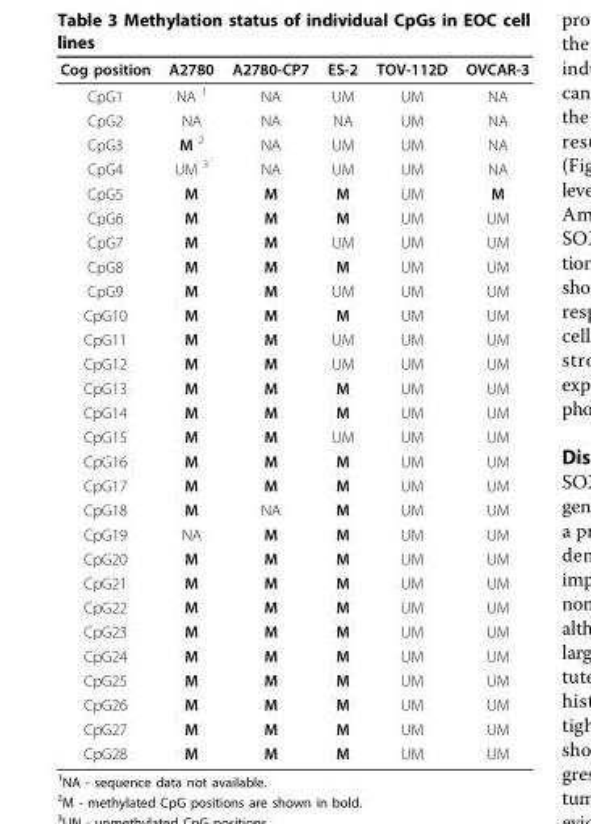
<table><thead><tr><td>Cog position</td><td>A2780</td><td>A2780-CP7</td><td>ES-2</td><td>TOV-112D</td><td>OVCAR-3</td></tr></thead><tbody><tr><td>CpG1</td><td>NA <sup>1</sup></td><td>NA</td><td>UM</td><td>UM</td><td>NA</td></tr><tr><td>CpG2</td><td>NA</td><td>NA</td><td>NA</td><td>UM</td><td>NA</td></tr><tr><td>CpG3</td><td>M <sup>2</sup></td><td>NA</td><td>UM</td><td>UM</td><td>NA</td></tr><tr><td>CpG4</td><td>UM <sup>3</sup></td><td>NA</td><td>UM</td><td>UM</td><td>NA</td></tr><tr><td>CpG5</td><td>M</td><td>M</td><td>M</td><td>UM</td><td>M</td></tr><tr><td>CpG6</td><td>M</td><td>M</td><td>M</td><td>UM</td><td>UM</td></tr><tr><td>CpG7</td><td>M</td><td>M</td><td>UM</td><td>UM</td><td>UM</td></tr><tr><td>CpG8</td><td>M</td><td>M</td><td>M</td><td>UM</td><td>UM</td></tr><tr><td>CpG9</td><td>M</td><td>M</td><td>UM</td><td>UM</td><td>UM</td></tr><tr><td>CpG10</td><td>M</td><td>M</td><td>M</td><td>UM</td><td>UM</td></tr><tr><td>CpG11</td><td>M</td><td>M</td><td>UM</td><td>UM</td><td>UM</td></tr><tr><td>CpG12</td><td>M</td><td>M</td><td>UM</td><td>UM</td><td>UM</td></tr><tr><td>CpG13</td><td>M</td><td>M</td><td>M</td><td>UM</td><td>UM</td></tr><tr><td>CpG14</td><td>M</td><td>M</td><td>M</td><td>UM</td><td>UM</td></tr><tr><td>CpG15</td><td>M</td><td>M</td><td>UM</td><td>UM</td><td>UM</td></tr><tr><td>CpG16</td><td>M</td><td>M</td><td>M</td><td>UM</td><td>UM</td></tr><tr><td>CpG17</td><td>M</td><td>M</td><td>M</td><td>UM</td><td>UM</td></tr><tr><td>CpG18</td><td>M</td><td>NA</td><td>M</td><td>UM</td><td>UM</td></tr><tr><td>CpG19</td><td>NA</td><td>M</td><td>M</td><td>UM</td><td>UM</td></tr><tr><td>CpG20</td><td>M</td><td>M</td><td>M</td><td>UM</td><td>UM</td></tr><tr><td>CpG21</td><td>M</td><td>M</td><td>M</td><td>UM</td><td>UM</td></tr><tr><td>CpG22</td><td>M</td><td>M</td><td>M</td><td>UM</td><td>UM</td></tr><tr><td>CpG23</td><td>M</td><td>M</td><td>M</td><td>UM</td><td>UM</td></tr><tr><td>CpG24</td><td>M</td><td>M</td><td>M</td><td>UM</td><td>UM</td></tr><tr><td>CpG25</td><td>M</td><td>M</td><td>M</td><td>UM</td><td>UM</td></tr><tr><td>CpG26</td><td>M</td><td>M</td><td>M</td><td>UM</td><td>UM</td></tr><tr><td>CpG27</td><td>M</td><td>M</td><td>M</td><td>UM</td><td>UM</td></tr><tr><td>CpG28</td><td>M</td><td>M</td><td>M</td><td>UM</td><td>UM</td></tr></tbody></table>